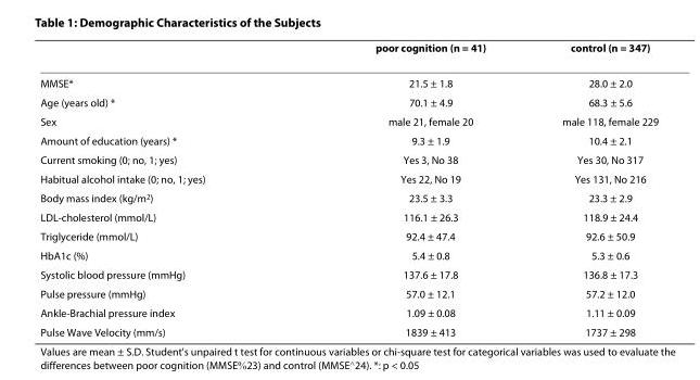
<table><thead><tr><td></td><td>poor cognition (n = 41)</td><td>control (n = 347)</td></tr></thead><tbody><tr><td>MMSE*</td><td>21.5 ± 1.8</td><td>28.0 ± 2.0</td></tr><tr><td>Age (years old) *</td><td>70.1 ± 4.9</td><td>68.3 ± 5.6</td></tr><tr><td>Sex</td><td>male 21, female 20</td><td>male 118, female 229</td></tr><tr><td>Amount of education (years) *</td><td>9.3 ± 1.9</td><td>10.4 ± 2.1</td></tr><tr><td>Current smoking (0; no, 1; yes)</td><td>Yes 3, No 38</td><td>Yes 30, No 317</td></tr><tr><td>Habitual alcohol intake (0; no, 1; yes)</td><td>Yes 22, No 19</td><td>Yes 131, No 216</td></tr><tr><td>Body mass index (kg/m<sup>2</sup>)</td><td>23.5 ± 3.3</td><td>23.3 ± 2.9</td></tr><tr><td>LDL-cholesterol (mmol/L)</td><td>116.1 ± 26.3</td><td>118.9 ± 24.4</td></tr><tr><td>Triglyceride (mmol/L)</td><td>92.4 ± 47.4</td><td>92.6 ± 50.9</td></tr><tr><td>HbA1c (%)</td><td>5.4 ± 0.8</td><td>5.3 ± 0.6</td></tr><tr><td>Systolic blood pressure (mmHg)</td><td>137.6 ± 17.8</td><td>136.8 ± 17.3</td></tr><tr><td>Pulse pressure (mmHg)</td><td>57.0 ± 12.1</td><td>57.2 ± 12.0</td></tr><tr><td>Ankle-Brachial pressure index</td><td>1.09 ± 0.08</td><td>1.11 ± 0.09</td></tr><tr><td>Pulse Wave Velocity (mm/s)</td><td>1839 ± 413</td><td>1737 ± 298</td></tr></tbody></table>